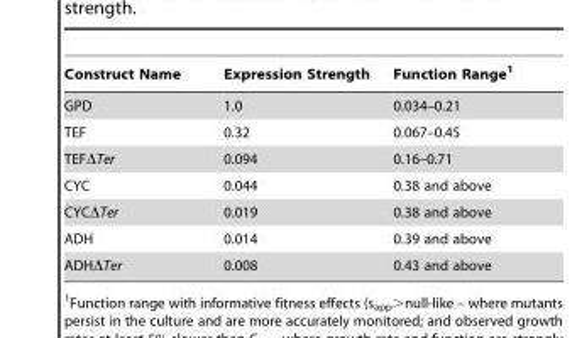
<table><thead><tr><td>Construct Name</td><td>Expression Strength</td><td>Function Range<sup>1</sup></td></tr></thead><tbody><tr><td>GPD</td><td>1.0</td><td>0.034–0.21</td></tr><tr><td>TEF</td><td>0.32</td><td>0.067–0.45</td></tr><tr><td>TEFΔTer</td><td>0.094</td><td>0.16–0.71</td></tr><tr><td>CYC</td><td>0.044</td><td>0.38 and above</td></tr><tr><td>CYCΔTer</td><td>0.019</td><td>0.38 and above</td></tr><tr><td>ADH</td><td>0.014</td><td>0.39 and above</td></tr><tr><td>ADHΔTer</td><td>0.008</td><td>0.43 and above</td></tr></tbody></table>